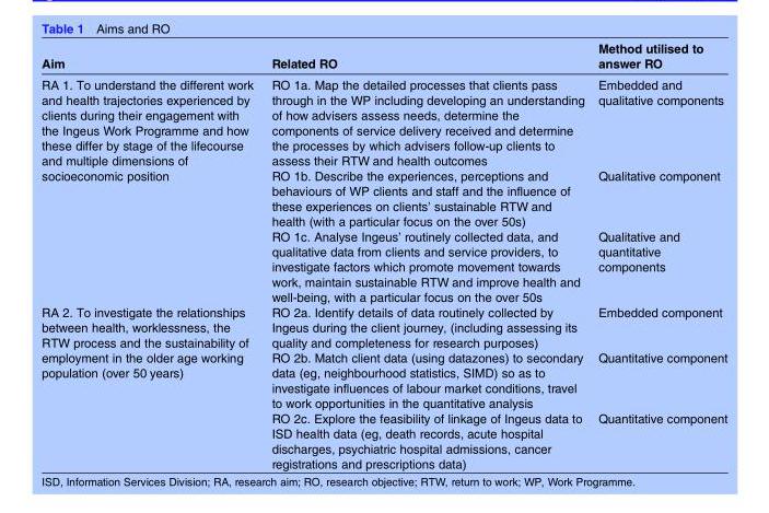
<table><thead><tr><td>Aim</td><td>Related RO</td><td>Method utilised to answer RO</td></tr></thead><tbody><tr><td rowspan="3">RA 1. To understand the different work and health trajectories experienced by clients during their engagement with the Ingeus Work Programme and how these differ by stage of the lifecourse and multiple dimensions of socioeconomic position</td><td>RO 1a. Map the detailed processes that clients pass through in the WP including developing an understanding of how advisers assess needs, determine the components of service delivery received and determine the processes by which advisers follow-up clients to assess their RTW and health outcomes</td><td>Embedded and qualitative components</td></tr><tr><td>RO 1b. Describe the experiences, perceptions and behaviours of WP clients and staff and the influence of these experiences on clients’ sustainable RTW and health (with a particular focus on the over 50s)</td><td>Qualitative component</td></tr><tr><td>RO 1c. Analyse Ingeus’ routinely collected data, and qualitative data from clients and service providers, to investigate factors which promote movement towards work, maintain sustainable RTW and improve health and well-being, with a particular focus on the over 50s</td><td>Qualitative and quantitative components</td></tr><tr><td rowspan="3">RA 2. To investigate the relationships between health, worklessness, the RTW process and the sustainability of employment in the older age working population (over 50 years)</td><td>RO 2a. Identify details of data routinely collected by Ingeus during the client journey, (including assessing its quality and completeness for research purposes)</td><td>Embedded component</td></tr><tr><td>RO 2b. Match client data (using datazones) to secondary data (eg, neighbourhood statistics, SIMD) so as to investigate influences of labour market conditions, travel to work opportunities in the quantitative analysis</td><td>Quantitative component</td></tr><tr><td>RO 2c. Explore the feasibility of linkage of Ingeus data to ISD health data (eg, death records, acute hospital discharges, psychiatric hospital admissions, cancer registrations and prescriptions data)</td><td>Quantitative component</td></tr></tbody></table>